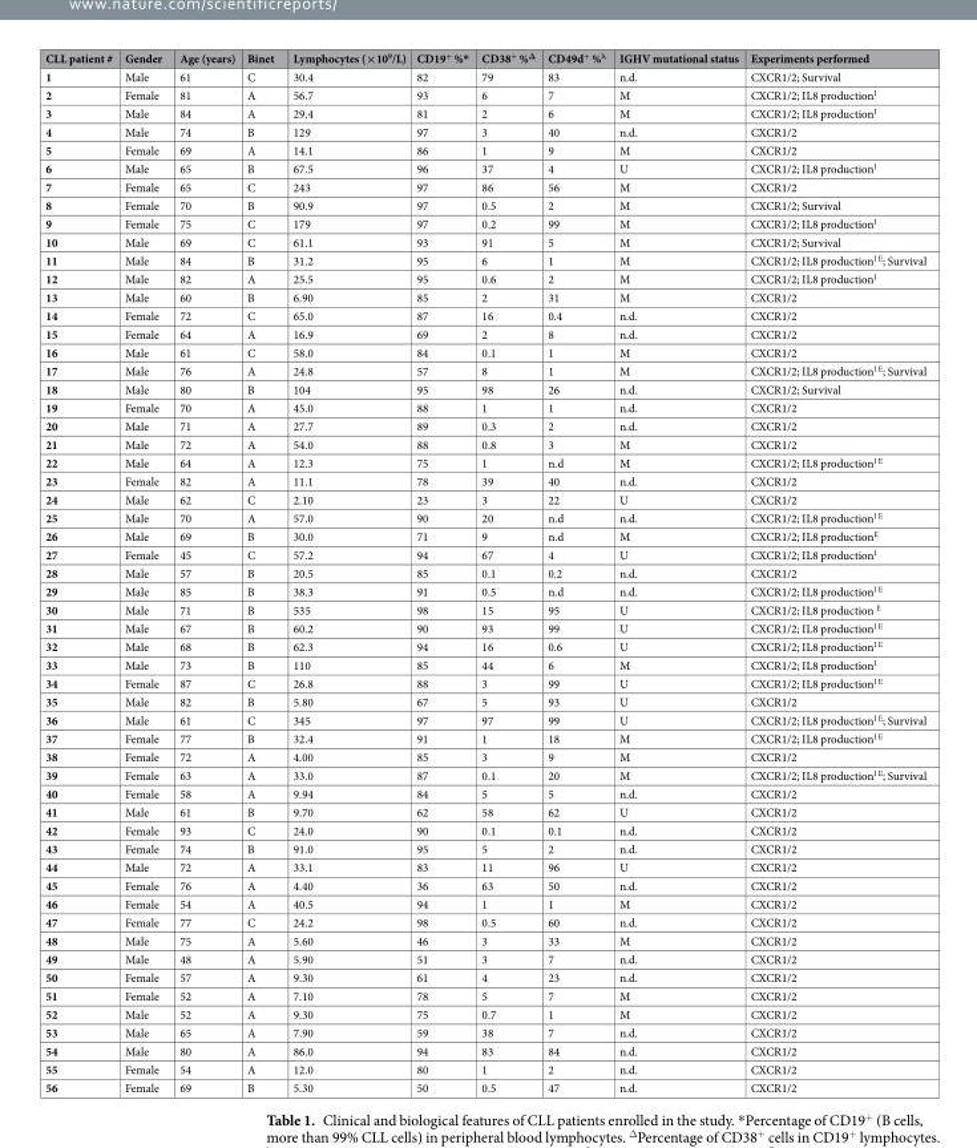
<table><thead><tr><td>CLL patient #</td><td>Gender</td><td>Age (years)</td><td>Binet</td><td>Lymphocytes (×10<sup>9</sup>/L)</td><td>CD19<sup>+</sup> %*</td><td>CD38<sup>+</sup> %<sup>Δ</sup></td><td>CD49d<sup>+</sup> %<sup>λ</sup></td><td>IGHV mutational status</td><td>Experiments performed</td></tr></thead><tbody><tr><td>1</td><td>Male</td><td>61</td><td>C</td><td>30.4</td><td>82</td><td>79</td><td>83</td><td>n.d.</td><td>CXCR1/2; Survival</td></tr><tr><td>2</td><td>Female</td><td>81</td><td>A</td><td>56.7</td><td>93</td><td>6</td><td>7</td><td>M</td><td>CXCR1/2; IL8 production<sup>I</sup></td></tr><tr><td>3</td><td>Male</td><td>84</td><td>A</td><td>29.4</td><td>81</td><td>2</td><td>6</td><td>M</td><td>CXCR1/2; IL8 production<sup>I</sup></td></tr><tr><td>4</td><td>Male</td><td>74</td><td>B</td><td>129</td><td>97</td><td>3</td><td>40</td><td>n.d.</td><td>CXCR1/2</td></tr><tr><td>5</td><td>Female</td><td>69</td><td>A</td><td>14.1</td><td>86</td><td>1</td><td>9</td><td>M</td><td>CXCR1/2</td></tr><tr><td>6</td><td>Male</td><td>65</td><td>B</td><td>67.5</td><td>96</td><td>37</td><td>4</td><td>U</td><td>CXCR1/2; IL8 production<sup>I</sup></td></tr><tr><td>7</td><td>Female</td><td>65</td><td>C</td><td>243</td><td>97</td><td>86</td><td>56</td><td>M</td><td>CXCR1/2</td></tr><tr><td>8</td><td>Female</td><td>70</td><td>B</td><td>90.9</td><td>97</td><td>0.5</td><td>2</td><td>M</td><td>CXCR1/2; Survival</td></tr><tr><td>9</td><td>Female</td><td>75</td><td>C</td><td>179</td><td>97</td><td>0.2</td><td>99</td><td>M</td><td>CXCR1/2; IL8 production<sup>I</sup></td></tr><tr><td>10</td><td>Male</td><td>69</td><td>C</td><td>61.1</td><td>93</td><td>91</td><td>5</td><td>M</td><td>CXCR1/2; Survival</td></tr><tr><td>11</td><td>Male</td><td>84</td><td>B</td><td>31.2</td><td>95</td><td>6</td><td>1</td><td>M</td><td>CXCR1/2; IL8 production<sup>I E</sup>; Survival</td></tr><tr><td>12</td><td>Male</td><td>82</td><td>A</td><td>25.5</td><td>95</td><td>0.6</td><td>2</td><td>M</td><td>CXCR1/2; IL8 production<sup>I</sup></td></tr><tr><td>13</td><td>Male</td><td>60</td><td>B</td><td>6.90</td><td>85</td><td>2</td><td>31</td><td>M</td><td>CXCR1/2</td></tr><tr><td>14</td><td>Female</td><td>72</td><td>C</td><td>65.0</td><td>87</td><td>16</td><td>0.4</td><td>n.d.</td><td>CXCR1/2</td></tr><tr><td>15</td><td>Female</td><td>64</td><td>A</td><td>16.9</td><td>69</td><td>2</td><td>8</td><td>n.d.</td><td>CXCR1/2</td></tr><tr><td>16</td><td>Male</td><td>61</td><td>C</td><td>58.0</td><td>84</td><td>0.1</td><td>1</td><td>M</td><td>CXCR1/2</td></tr><tr><td>17</td><td>Male</td><td>76</td><td>A</td><td>24.8</td><td>57</td><td>8</td><td>1</td><td>M</td><td>CXCR1/2; IL8 production<sup>I E</sup>; Survival</td></tr><tr><td>18</td><td>Male</td><td>80</td><td>B</td><td>104</td><td>95</td><td>98</td><td>26</td><td>n.d.</td><td>CXCR1/2; Survival</td></tr><tr><td>19</td><td>Female</td><td>70</td><td>A</td><td>45.0</td><td>88</td><td>1</td><td>1</td><td>n.d.</td><td>CXCR1/2</td></tr><tr><td>20</td><td>Male</td><td>71</td><td>A</td><td>27.7</td><td>89</td><td>0.3</td><td>2</td><td>n.d.</td><td>CXCR1/2</td></tr><tr><td>21</td><td>Male</td><td>72</td><td>A</td><td>54.0</td><td>88</td><td>0.8</td><td>3</td><td>M</td><td>CXCR1/2</td></tr><tr><td>22</td><td>Male</td><td>64</td><td>A</td><td>12.3</td><td>75</td><td>1</td><td>n.d</td><td>M</td><td>CXCR1/2; IL8 production<sup>I E</sup></td></tr><tr><td>23</td><td>Female</td><td>82</td><td>A</td><td>11.1</td><td>78</td><td>39</td><td>40</td><td>n.d.</td><td>CXCR1/2</td></tr><tr><td>24</td><td>Male</td><td>62</td><td>C</td><td>2.10</td><td>23</td><td>3</td><td>22</td><td>U</td><td>CXCR1/2</td></tr><tr><td>25</td><td>Male</td><td>70</td><td>A</td><td>57.0</td><td>90</td><td>20</td><td>n.d</td><td>n.d.</td><td>CXCR1/2; IL8 production<sup>I E</sup></td></tr><tr><td>26</td><td>Male</td><td>69</td><td>B</td><td>30.0</td><td>71</td><td>9</td><td>n.d</td><td>M</td><td>CXCR1/2; IL8 production<sup>E</sup></td></tr><tr><td>27</td><td>Female</td><td>45</td><td>C</td><td>57.2</td><td>94</td><td>67</td><td>4</td><td>U</td><td>CXCR1/2; IL8 production<sup>I</sup></td></tr><tr><td>28</td><td>Male</td><td>57</td><td>B</td><td>20.5</td><td>85</td><td>0.1</td><td>0.2</td><td>n.d.</td><td>CXCR1/2</td></tr><tr><td>29</td><td>Male</td><td>85</td><td>B</td><td>38.3</td><td>91</td><td>0.5</td><td>n.d</td><td>n.d.</td><td>CXCR1/2; IL8 production<sup>I E</sup></td></tr><tr><td>30</td><td>Male</td><td>71</td><td>B</td><td>535</td><td>98</td><td>15</td><td>95</td><td>U</td><td>CXCR1/2; IL8 production <sup>E</sup></td></tr><tr><td>31</td><td>Male</td><td>67</td><td>B</td><td>60.2</td><td>90</td><td>93</td><td>99</td><td>U</td><td>CXCR1/2; IL8 production<sup>I E</sup></td></tr><tr><td>32</td><td>Male</td><td>68</td><td>B</td><td>62.3</td><td>94</td><td>16</td><td>0.6</td><td>U</td><td>CXCR1/2; IL8 production<sup>I E</sup></td></tr><tr><td>33</td><td>Male</td><td>73</td><td>B</td><td>110</td><td>85</td><td>44</td><td>6</td><td>M</td><td>CXCR1/2; IL8 production<sup>I</sup></td></tr><tr><td>34</td><td>Female</td><td>87</td><td>C</td><td>26.8</td><td>88</td><td>3</td><td>99</td><td>U</td><td>CXCR1/2; IL8 production<sup>I E</sup></td></tr><tr><td>35</td><td>Male</td><td>82</td><td>B</td><td>5.80</td><td>67</td><td>5</td><td>93</td><td>U</td><td>CXCR1/2</td></tr><tr><td>36</td><td>Male</td><td>61</td><td>C</td><td>345</td><td>97</td><td>97</td><td>99</td><td>U</td><td>CXCR1/2; IL8 production<sup>I E</sup>; Survival</td></tr><tr><td>37</td><td>Female</td><td>77</td><td>B</td><td>32.4</td><td>91</td><td>1</td><td>18</td><td>M</td><td>CXCR1/2; IL8 production<sup>I E</sup></td></tr><tr><td>38</td><td>Female</td><td>72</td><td>A</td><td>4.00</td><td>85</td><td>3</td><td>9</td><td>M</td><td>CXCR1/2</td></tr><tr><td>39</td><td>Female</td><td>63</td><td>A</td><td>33.0</td><td>87</td><td>0.1</td><td>20</td><td>M</td><td>CXCR1/2; IL8 production<sup>I E</sup>; Survival</td></tr><tr><td>40</td><td>Female</td><td>58</td><td>A</td><td>9.94</td><td>84</td><td>5</td><td>5</td><td>n.d.</td><td>CXCR1/2</td></tr><tr><td>41</td><td>Male</td><td>61</td><td>B</td><td>9.70</td><td>62</td><td>58</td><td>62</td><td>U</td><td>CXCR1/2</td></tr><tr><td>42</td><td>Female</td><td>93</td><td>C</td><td>24.0</td><td>90</td><td>0.1</td><td>0.1</td><td>n.d.</td><td>CXCR1/2</td></tr><tr><td>43</td><td>Female</td><td>74</td><td>B</td><td>91.0</td><td>95</td><td>5</td><td>2</td><td>n.d.</td><td>CXCR1/2</td></tr><tr><td>44</td><td>Male</td><td>72</td><td>A</td><td>33.1</td><td>83</td><td>11</td><td>96</td><td>U</td><td>CXCR1/2</td></tr><tr><td>45</td><td>Female</td><td>76</td><td>A</td><td>4.40</td><td>36</td><td>63</td><td>50</td><td>n.d.</td><td>CXCR1/2</td></tr><tr><td>46</td><td>Female</td><td>54</td><td>A</td><td>40.5</td><td>94</td><td>1</td><td>1</td><td>M</td><td>CXCR1/2</td></tr><tr><td>47</td><td>Female</td><td>77</td><td>C</td><td>24.2</td><td>98</td><td>0.5</td><td>60</td><td>n.d.</td><td>CXCR1/2</td></tr><tr><td>48</td><td>Male</td><td>75</td><td>A</td><td>5.60</td><td>46</td><td>3</td><td>33</td><td>M</td><td>CXCR1/2</td></tr><tr><td>49</td><td>Male</td><td>48</td><td>A</td><td>5.90</td><td>51</td><td>3</td><td>7</td><td>n.d.</td><td>CXCR1/2</td></tr><tr><td>50</td><td>Female</td><td>57</td><td>A</td><td>9.30</td><td>61</td><td>4</td><td>23</td><td>n.d.</td><td>CXCR1/2</td></tr><tr><td>51</td><td>Female</td><td>52</td><td>A</td><td>7.10</td><td>78</td><td>5</td><td>7</td><td>M</td><td>CXCR1/2</td></tr><tr><td>52</td><td>Male</td><td>52</td><td>A</td><td>9.30</td><td>75</td><td>0.7</td><td>1</td><td>M</td><td>CXCR1/2</td></tr><tr><td>53</td><td>Male</td><td>65</td><td>A</td><td>7.90</td><td>59</td><td>38</td><td>7</td><td>n.d.</td><td>CXCR1/2</td></tr><tr><td>54</td><td>Male</td><td>80</td><td>A</td><td>86.0</td><td>94</td><td>83</td><td>84</td><td>n.d.</td><td>CXCR1/2</td></tr><tr><td>55</td><td>Female</td><td>54</td><td>A</td><td>12.0</td><td>80</td><td>1</td><td>2</td><td>n.d.</td><td>CXCR1/2</td></tr><tr><td>56</td><td>Female</td><td>69</td><td>B</td><td>5.30</td><td>50</td><td>0.5</td><td>47</td><td>n.d.</td><td>CXCR1/2</td></tr></tbody></table>